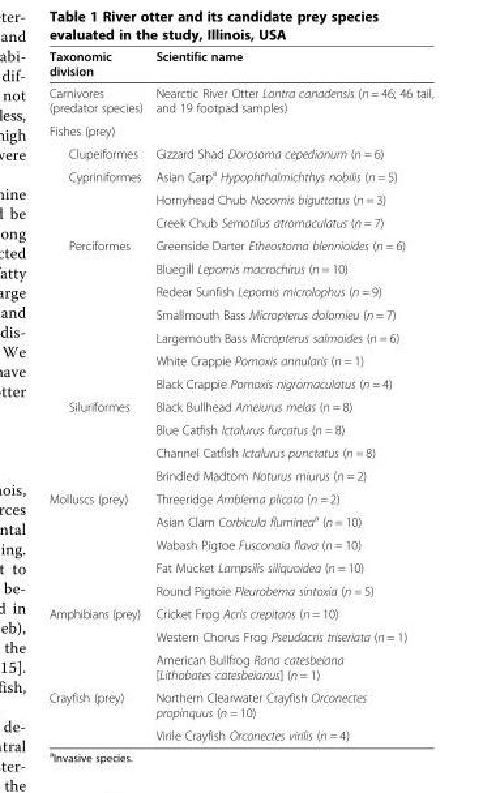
<table><thead><tr><td>Taxonomic division</td><td>Scientific name</td></tr></thead><tbody><tr><td>Carnivores (predator species)</td><td>Nearctic River Otter Lontra canadensis (n = 46; 46 tail, and 19 footpad samples)</td></tr><tr><td colspan="2">Fishes (prey)</td></tr><tr><td>Clupeiformes</td><td>Gizzard Shad Dorosoma cepedianum (n = 6)</td></tr><tr><td rowspan="3">Cypriniformes</td><td>Asian Carp<sup>a</sup> Hypophthalmichthys nobilis (n = 5)</td></tr><tr><td>Hornyhead Chub Nocomis biguttatus (n = 3)</td></tr><tr><td>Creek Chub Semotilus atromaculatus (n = 7)</td></tr><tr><td rowspan="7">Perciformes</td><td>Greenside Darter Etheostoma blennioides (n = 6)</td></tr><tr><td>Bluegill Lepomis macrochirus (n = 10)</td></tr><tr><td>Redear Sunfish Lepomis microlophus (n = 9)</td></tr><tr><td>Smallmouth Bass Micropterus dolomieu (n = 7)</td></tr><tr><td>Largemouth Bass Micropterus salmoides (n = 6)</td></tr><tr><td>White Crappie Pomoxis annularis (n = 1)</td></tr><tr><td>Black Crappie Pomoxis nigromaculatus (n = 4)</td></tr><tr><td rowspan="4">Siluriformes</td><td>Black Bullhead Ameiurus melas (n = 8)</td></tr><tr><td>Blue Catfish Ictalurus furcatus (n = 8)</td></tr><tr><td>Channel Catfish Ictalurus punctatus (n = 8)</td></tr><tr><td>Brindled Madtom Noturus miurus (n = 2)</td></tr><tr><td rowspan="5">Molluscs (prey)</td><td>Threeridge Amblema plicata (n = 2)</td></tr><tr><td>Asian Clam Corbicula fluminea<sup>a</sup> (n = 10)</td></tr><tr><td>Wabash Pigtoe Fusconaia flava (n = 10)</td></tr><tr><td>Fat Mucket Lampsilis siliquoidea (n = 10)</td></tr><tr><td>Round Pigtoie Pleurobema sintoxia (n = 5)</td></tr><tr><td rowspan="3">Amphibians (prey)</td><td>Cricket Frog Acris crepitans (n = 10)</td></tr><tr><td>Western Chorus Frog Pseudacris triseriata (n = 1)</td></tr><tr><td>American Bullfrog Rana catesbeiana [Lithobates catesbeianus] (n = 1)</td></tr><tr><td rowspan="2">Crayfish (prey)</td><td>Northern Clearwater Crayfish Orconectes propinquus (n = 10)</td></tr><tr><td>Virile Crayfish Orconectes virilis (n = 4)</td></tr></tbody></table>